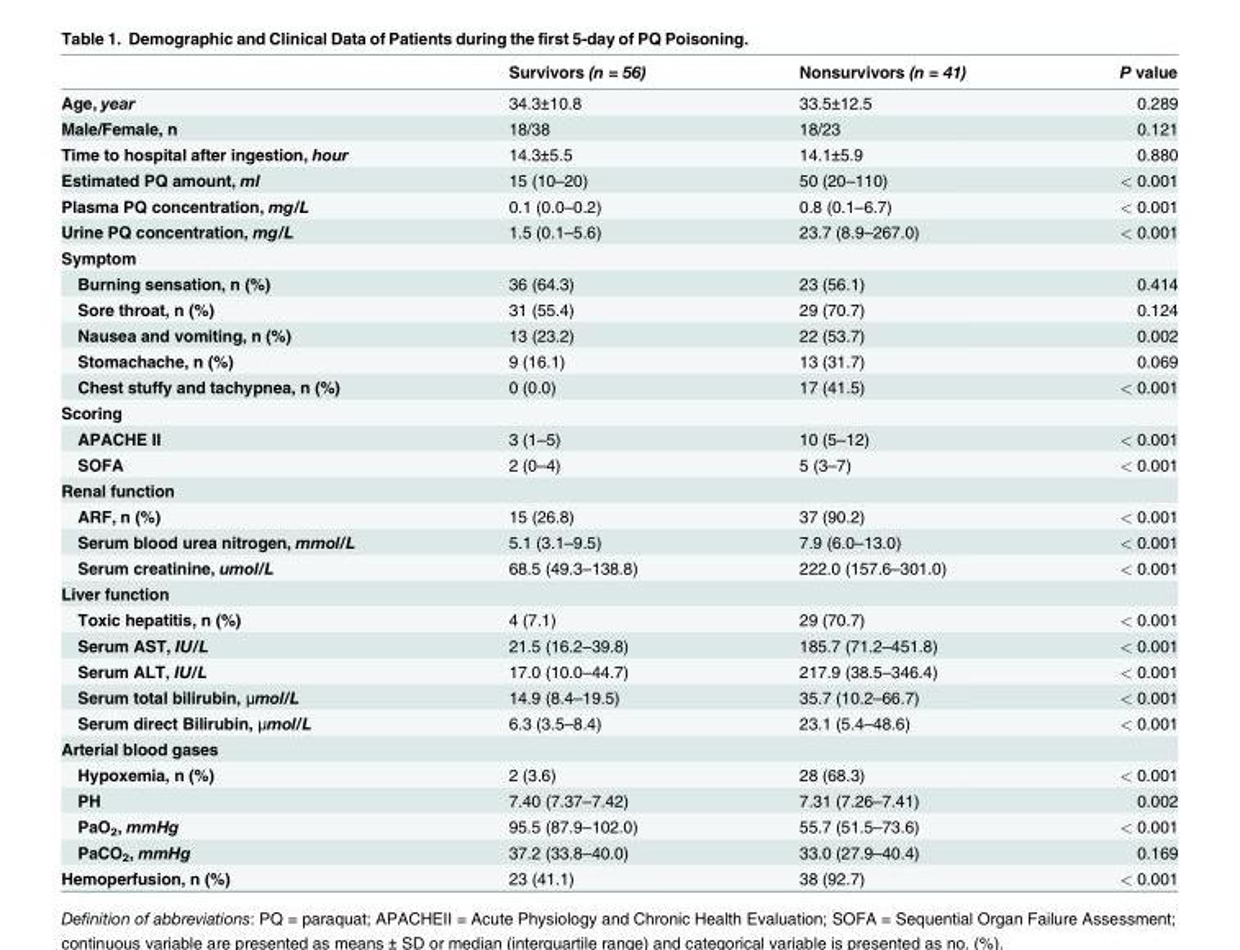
<table><thead><tr><td></td><td>Survivors (n = 56)</td><td>Nonsurvivors (n = 41)</td><td>P value</td></tr></thead><tbody><tr><td>Age, year</td><td>34.3±10.8</td><td>33.5±12.5</td><td>0.289</td></tr><tr><td>Male/Female, n</td><td>18/38</td><td>18/23</td><td>0.121</td></tr><tr><td>Time to hospital after ingestion, hour</td><td>14.3±5.5</td><td>14.1±5.9</td><td>0.880</td></tr><tr><td>Estimated PQ amount, ml</td><td>15 (10–20)</td><td>50 (20–110)</td><td>&lt; 0.001</td></tr><tr><td>Plasma PQ concentration, mg/L</td><td>0.1 (0.0–0.2)</td><td>0.8 (0.1–6.7)</td><td>&lt; 0.001</td></tr><tr><td>Urine PQ concentration, mg/L</td><td>1.5 (0.1–5.6)</td><td>23.7 (8.9–267.0)</td><td>&lt; 0.001</td></tr><tr><td colspan="4">Symptom</td></tr><tr><td>Burning sensation, n (%)</td><td>36 (64.3)</td><td>23 (56.1)</td><td>0.414</td></tr><tr><td>Sore throat, n (%)</td><td>31 (55.4)</td><td>29 (70.7)</td><td>0.124</td></tr><tr><td>Nausea and vomiting, n (%)</td><td>13 (23.2)</td><td>22 (53.7)</td><td>0.002</td></tr><tr><td>Stomachache, n (%)</td><td>9 (16.1)</td><td>13 (31.7)</td><td>0.069</td></tr><tr><td>Chest stuffy and tachypnea, n (%)</td><td>0 (0.0)</td><td>17 (41.5)</td><td>&lt; 0.001</td></tr><tr><td colspan="4">Scoring</td></tr><tr><td>APACHE II</td><td>3 (1–5)</td><td>10 (5–12)</td><td>&lt; 0.001</td></tr><tr><td>SOFA</td><td>2 (0–4)</td><td>5 (3–7)</td><td>&lt; 0.001</td></tr><tr><td colspan="4">Renal function</td></tr><tr><td>ARF, n (%)</td><td>15 (26.8)</td><td>37 (90.2)</td><td>&lt; 0.001</td></tr><tr><td>Serum blood urea nitrogen, mmol/L</td><td>5.1 (3.1–9.5)</td><td>7.9 (6.0–13.0)</td><td>&lt; 0.001</td></tr><tr><td>Serum creatinine, umol/L</td><td>68.5 (49.3–138.8)</td><td>222.0 (157.6–301.0)</td><td>&lt; 0.001</td></tr><tr><td colspan="4">Liver function</td></tr><tr><td>Toxic hepatitis, n (%)</td><td>4 (7.1)</td><td>29 (70.7)</td><td>&lt; 0.001</td></tr><tr><td>Serum AST, IU/L</td><td>21.5 (16.2–39.8)</td><td>185.7 (71.2–451.8)</td><td>&lt; 0.001</td></tr><tr><td>Serum ALT, IU/L</td><td>17.0 (10.0–44.7)</td><td>217.9 (38.5–346.4)</td><td>&lt; 0.001</td></tr><tr><td>Serum total bilirubin, μmol/L</td><td>14.9 (8.4–19.5)</td><td>35.7 (10.2–66.7)</td><td>&lt; 0.001</td></tr><tr><td>Serum direct Bilirubin, μmol/L</td><td>6.3 (3.5–8.4)</td><td>23.1 (5.4–48.6)</td><td>&lt; 0.001</td></tr><tr><td colspan="4">Arterial blood gases</td></tr><tr><td>Hypoxemia, n (%)</td><td>2 (3.6)</td><td>28 (68.3)</td><td>&lt; 0.001</td></tr><tr><td>PH</td><td>7.40 (7.37–7.42)</td><td>7.31 (7.26–7.41)</td><td>0.002</td></tr><tr><td>PaO<sub>2</sub>, mmHg</td><td>95.5 (87.9–102.0)</td><td>55.7 (51.5–73.6)</td><td>&lt; 0.001</td></tr><tr><td>PaCO<sub>2</sub>, mmHg</td><td>37.2 (33.8–40.0)</td><td>33.0 (27.9–40.4)</td><td>0.169</td></tr><tr><td>Hemoperfusion, n (%)</td><td>23 (41.1)</td><td>38 (92.7)</td><td>&lt; 0.001</td></tr></tbody></table>